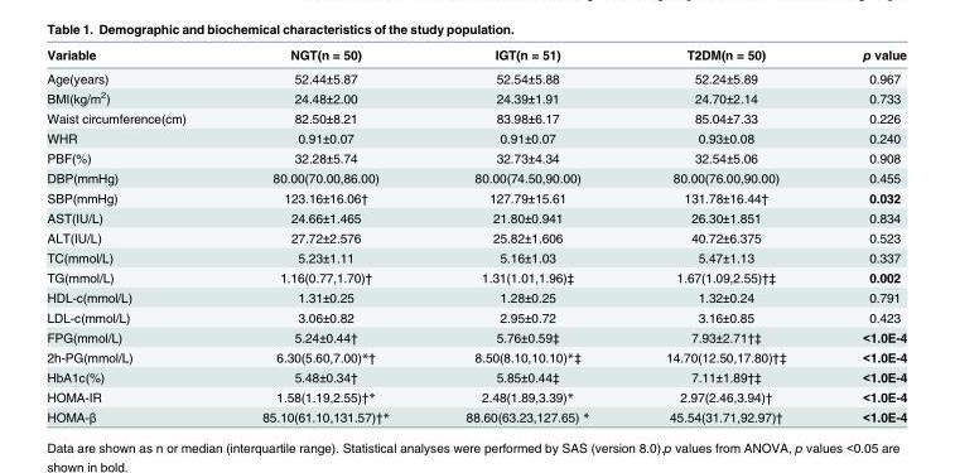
<table><thead><tr><td>Variable</td><td>NGT(n = 50)</td><td>IGT(n = 51)</td><td>T2DM(n = 50)</td><td>p value</td></tr></thead><tbody><tr><td>Age(years)</td><td>52.44±5.87</td><td>52.54±5.88</td><td>52.24±5.89</td><td>0.967</td></tr><tr><td>BMI(kg/m<sup>2</sup>)</td><td>24.48±2.00</td><td>24.39±1.91</td><td>24.70±2.14</td><td>0.733</td></tr><tr><td>Waist circumference(cm)</td><td>82.50±8.21</td><td>83.98±6.17</td><td>85.04±7.33</td><td>0.226</td></tr><tr><td>WHR</td><td>0.91±0.07</td><td>0.91±0.07</td><td>0.93±0.08</td><td>0.240</td></tr><tr><td>PBF(%)</td><td>32.28±5.74</td><td>32.73±4.34</td><td>32.54±5.06</td><td>0.908</td></tr><tr><td>DBP(mmHg)</td><td>80.00(70.00,86.00)</td><td>80.00(74.50,90.00)</td><td>80.00(76.00,90.00)</td><td>0.455</td></tr><tr><td>SBP(mmHg)</td><td>123.16±16.06†</td><td>127.79±15.61</td><td>131.78±16.44†</td><td>0.032</td></tr><tr><td>AST(IU/L)</td><td>24.66±1.465</td><td>21.80±0.941</td><td>26.30±1.851</td><td>0.834</td></tr><tr><td>ALT(IU/L)</td><td>27.72±2.576</td><td>25.82±1.606</td><td>40.72±6.375</td><td>0.523</td></tr><tr><td>TC(mmol/L)</td><td>5.23±1.11</td><td>5.16±1.03</td><td>5.47±1.13</td><td>0.337</td></tr><tr><td>TG(mmol/L)</td><td>1.16(0.77,1.70)†</td><td>1.31(1.01,1.96)‡</td><td>1.67(1.09,2.55)†‡</td><td>0.002</td></tr><tr><td>HDL-c(mmol/L)</td><td>1.31±0.25</td><td>1.28±0.25</td><td>1.32±0.24</td><td>0.791</td></tr><tr><td>LDL-c(mmol/L)</td><td>3.06±0.82</td><td>2.95±0.72</td><td>3.16±0.85</td><td>0.423</td></tr><tr><td>FPG(mmol/L)</td><td>5.24±0.44†</td><td>5.76±0.59‡</td><td>7.93±2.71†‡</td><td>&lt;1.0E-4</td></tr><tr><td>2h-PG(mmol/L)</td><td>6.30(5.60,7.00)*†</td><td>8.50(8.10,10.10)*‡</td><td>14.70(12.50,17.80)†‡</td><td>&lt;1.0E-4</td></tr><tr><td>HbA1c(%)</td><td>5.48±0.34†</td><td>5.85±0.44‡</td><td>7.11±1.89†‡</td><td>&lt;1.0E-4</td></tr><tr><td>HOMA-IR</td><td>1.58(1.19,2.55)†*</td><td>2.48(1.89,3.39)*</td><td>2.97(2.46,3.94)†</td><td>&lt;1.0E-4</td></tr><tr><td>HOMA-β</td><td>85.10(61.10,131.57)†*</td><td>88.60(63.23,127.65) *</td><td>45.54(31.71,92.97)†</td><td>&lt;1.0E-4</td></tr></tbody></table>